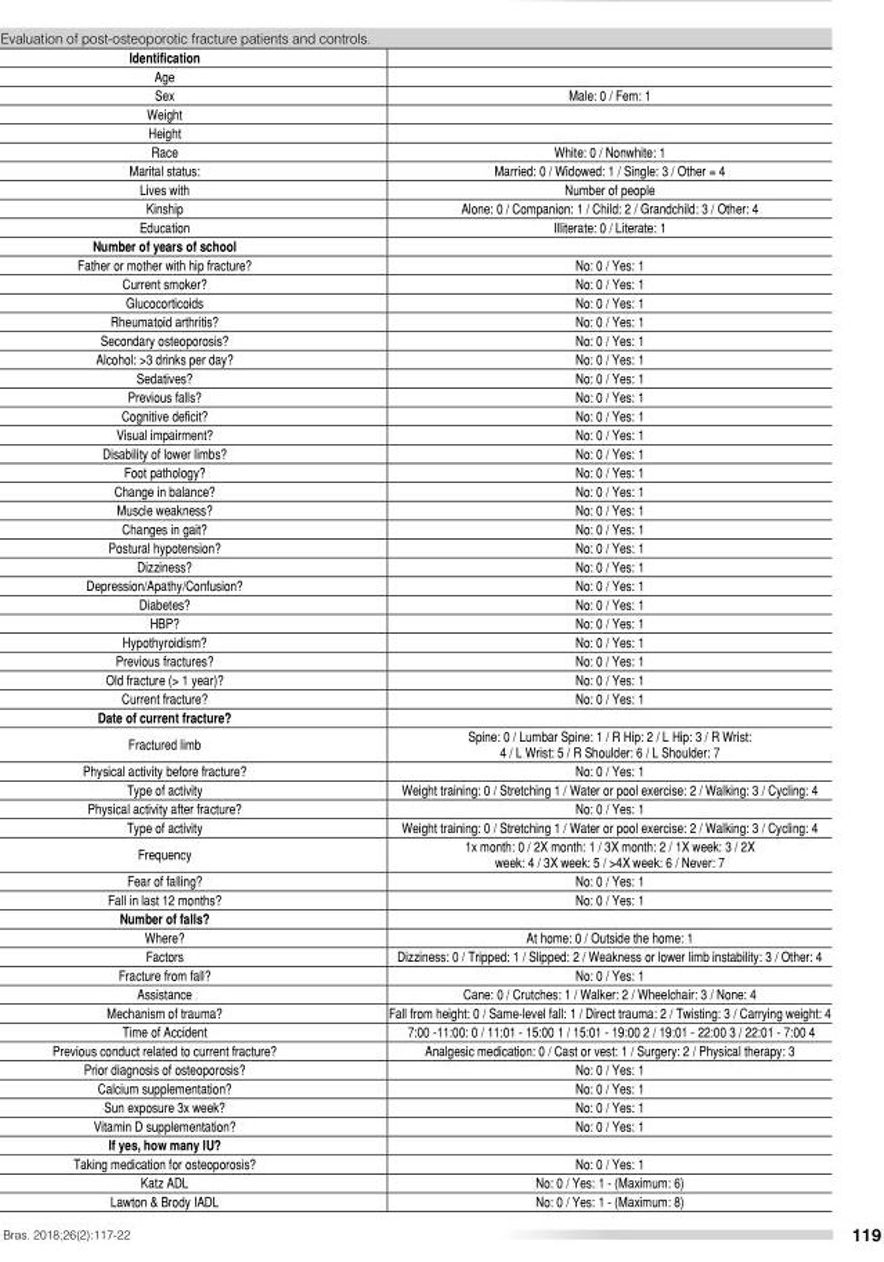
<table><thead><tr><td>Identification</td><td></td></tr></thead><tbody><tr><td colspan="2">Age</td></tr><tr><td>Sex</td><td>Male: 0 / Fem: 1</td></tr><tr><td colspan="2">Weight</td></tr><tr><td colspan="2">Height</td></tr><tr><td>Race</td><td>White: 0 / Nonwhite: 1</td></tr><tr><td>Marital status:</td><td>Married: 0 / Widowed: 1 / Single: 3 / Other = 4</td></tr><tr><td>Lives with</td><td>Number of people</td></tr><tr><td>Kinship</td><td>Alone: 0 / Companion: 1 / Child: 2 / Grandchild: 3 / Other: 4</td></tr><tr><td>Education</td><td>Illiterate: 0 / Literate: 1</td></tr><tr><td colspan="2">Number of years of school</td></tr><tr><td>Father or mother with hip fracture?</td><td>No: 0 / Yes: 1</td></tr><tr><td>Current smoker?</td><td>No: 0 / Yes: 1</td></tr><tr><td>Glucocorticoids</td><td>No: 0 / Yes: 1</td></tr><tr><td>Rheumatoid arthritis?</td><td>No: 0 / Yes: 1</td></tr><tr><td>Secondary osteoporosis?</td><td>No: 0 / Yes: 1</td></tr><tr><td>Alcohol: &gt;3 drinks per day?</td><td>No: 0 / Yes: 1</td></tr><tr><td>Sedatives?</td><td>No: 0 / Yes: 1</td></tr><tr><td>Previous falls?</td><td>No: 0 / Yes: 1</td></tr><tr><td>Cognitive deficit?</td><td>No: 0 / Yes: 1</td></tr><tr><td>Visual impairment?</td><td>No: 0 / Yes: 1</td></tr><tr><td>Disability of lower limbs?</td><td>No: 0 / Yes: 1</td></tr><tr><td>Foot pathology?</td><td>No: 0 / Yes: 1</td></tr><tr><td>Change in balance?</td><td>No: 0 / Yes: 1</td></tr><tr><td>Muscle weakness?</td><td>No: 0 / Yes: 1</td></tr><tr><td>Changes in gait?</td><td>No: 0 / Yes: 1</td></tr><tr><td>Postural hypotension?</td><td>No: 0 / Yes: 1</td></tr><tr><td>Dizziness?</td><td>No: 0 / Yes: 1</td></tr><tr><td>Depression/Apathy/Confusion?</td><td>No: 0 / Yes: 1</td></tr><tr><td>Diabetes?</td><td>No: 0 / Yes: 1</td></tr><tr><td>HBP?</td><td>No: 0 / Yes: 1</td></tr><tr><td>Hypothyroidism?</td><td>No: 0 / Yes: 1</td></tr><tr><td>Previous fractures?</td><td>No: 0 / Yes: 1</td></tr><tr><td>Old fracture (&gt; 1 year)?</td><td>No: 0 / Yes: 1</td></tr><tr><td>Current fracture?</td><td>No: 0 / Yes: 1</td></tr><tr><td colspan="2">Date of current fracture?</td></tr><tr><td>Fractured limb</td><td>Spine: 0 / Lumbar Spine: 1 / R Hip: 2 / L Hip: 3 / R Wrist: 4 / L Wrist: 5 / R Shoulder: 6 / L Shoulder: 7</td></tr><tr><td>Physical activity before fracture?</td><td>No: 0 / Yes: 1</td></tr><tr><td>Type of activity</td><td>Weight training: 0 / Stretching 1 / Water or pool exercise: 2 / Walking: 3 / Cycling: 4</td></tr><tr><td>Physical activity after fracture?</td><td>No: 0 / Yes: 1</td></tr><tr><td>Type of activity</td><td>Weight training: 0 / Stretching 1 / Water or pool exercise: 2 / Walking: 3 / Cycling: 4</td></tr><tr><td>Frequency</td><td>1x month: 0 / 2X month: 1 / 3X month: 2 / 1X week: 3 / 2X week: 4 / 3X week: 5 / &gt;4X week: 6 / Never: 7</td></tr><tr><td>Fear of falling?</td><td>No: 0 / Yes: 1</td></tr><tr><td>Fall in last 12 months?</td><td>No: 0 / Yes: 1</td></tr><tr><td colspan="2">Number of falls?</td></tr><tr><td>Where?</td><td>At home: 0 / Outside the home: 1</td></tr><tr><td>Factors</td><td>Dizziness: 0 / Tripped: 1 / Slipped: 2 / Weakness or lower limb instability: 3 / Other: 4</td></tr><tr><td>Fracture from fall?</td><td>No: 0 / Yes: 1</td></tr><tr><td>Assistance</td><td>Cane: 0 / Crutches: 1 / Walker: 2 / Wheelchair: 3 / None: 4</td></tr><tr><td>Mechanism of trauma?</td><td>Fall from height: 0 / Same-level fall: 1 / Direct trauma: 2 / Twisting: 3 / Carrying weight: 4</td></tr><tr><td>Time of Accident</td><td>7:00 -11:00: 0 / 11:01 - 15:00 1 / 15:01 - 19:00 2 / 19:01 - 22:00 3 / 22:01 - 7:00 4</td></tr><tr><td>Previous conduct related to current fracture?</td><td>Analgesic medication: 0 / Cast or vest: 1 / Surgery: 2 / Physical therapy: 3</td></tr><tr><td>Prior diagnosis of osteoporosis?</td><td>No: 0 / Yes: 1</td></tr><tr><td>Calcium supplementation?</td><td>No: 0 / Yes: 1</td></tr><tr><td>Sun exposure 3x week?</td><td>No: 0 / Yes: 1</td></tr><tr><td>Vitamin D supplementation?</td><td>No: 0 / Yes: 1</td></tr><tr><td colspan="2">If yes, how many IU?</td></tr><tr><td>Taking medication for osteoporosis?</td><td>No: 0 / Yes: 1</td></tr><tr><td>Katz ADL</td><td>No: 0 / Yes: 1 - (Maximum: 6)</td></tr><tr><td>Lawton &amp; Brody IADL</td><td>No: 0 / Yes: 1 - (Maximum: 8)</td></tr></tbody></table>